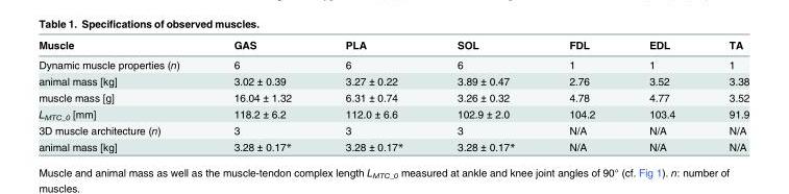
<table><thead><tr><td>Muscle</td><td>GAS</td><td>PLA</td><td>SOL</td><td>FDL</td><td>EDL</td><td>TA</td></tr></thead><tbody><tr><td>Dynamic muscle properties (n)</td><td>6</td><td>6</td><td>6</td><td>1</td><td>1</td><td>1</td></tr><tr><td>animal mass [kg]</td><td>3.02 ± 0.39</td><td>3.27 ± 0.22</td><td>3.89 ± 0.47</td><td>2.76</td><td>3.52</td><td>3.38</td></tr><tr><td>muscle mass [g]</td><td>16.04 ± 1.32</td><td>6.31 ± 0.74</td><td>3.26 ± 0.32</td><td>4.78</td><td>4.77</td><td>3.52</td></tr><tr><td>L<sub>MTC_0</sub> [mm]</td><td>118.2 ± 6.2</td><td>112.0 ± 6.6</td><td>102.9 ± 2.0</td><td>104.2</td><td>103.4</td><td>91.9</td></tr><tr><td>3D muscle architecture (n)</td><td>3</td><td>3</td><td>3</td><td>N/A</td><td>N/A</td><td>N/A</td></tr><tr><td>animal mass [kg]</td><td>3.28 ± 0.17*</td><td>3.28 ± 0.17*</td><td>3.28 ± 0.17*</td><td>N/A</td><td>N/A</td><td>N/A</td></tr></tbody></table>